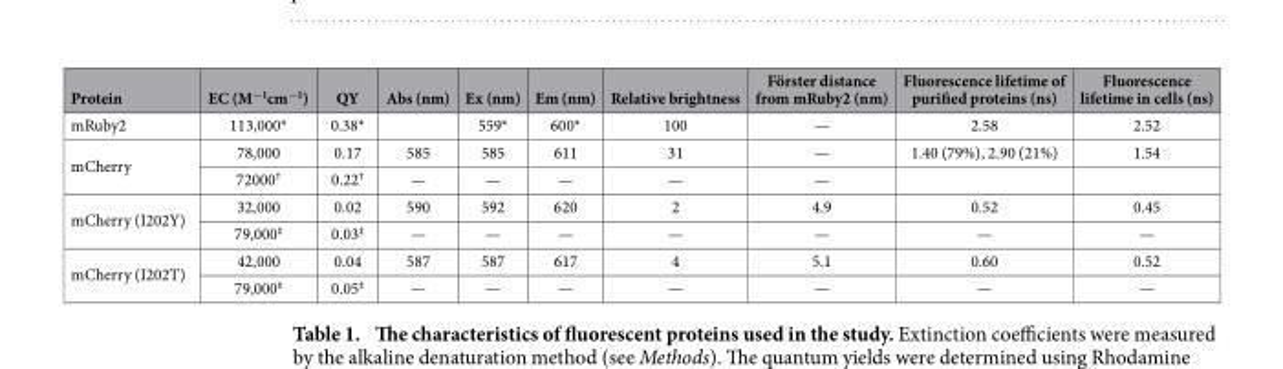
<table><thead><tr><td>Protein</td><td>EC (M<sup>−1</sup>cm<sup>−1</sup>)</td><td>QY</td><td>Abs (nm)</td><td>Ex (nm)</td><td>Em (nm)</td><td>Relative brightness</td><td>Förster distance from mRuby2 (nm)</td><td>Fluorescence lifetime of purified proteins (ns)</td><td>Fluorescence lifetime in cells (ns)</td></tr></thead><tbody><tr><td>mRuby2</td><td>113,000*</td><td>0.38*</td><td></td><td>559*</td><td>600*</td><td>100</td><td>—</td><td>2.58</td><td>2.52</td></tr><tr><td rowspan="2">mCherry</td><td>78,000</td><td>0.17</td><td>585</td><td>585</td><td>611</td><td>31</td><td>—</td><td>1.40 (79%), 2.90 (21%)</td><td>1.54</td></tr><tr><td>72000†</td><td>0.22†</td><td>—</td><td>—</td><td>—</td><td>—</td><td>—</td><td></td><td></td></tr><tr><td rowspan="2">mCherry (I202Y)</td><td>32,000</td><td>0.02</td><td>590</td><td>592</td><td>620</td><td>2</td><td>4.9</td><td>0.52</td><td>0.45</td></tr><tr><td>79,000‡</td><td>0.03‡</td><td>—</td><td>—</td><td>—</td><td>—</td><td>—</td><td>—</td><td>—</td></tr><tr><td rowspan="2">mCherry (I202T)</td><td>42,000</td><td>0.04</td><td>587</td><td>587</td><td>617</td><td>4</td><td>5.1</td><td>0.60</td><td>0.52</td></tr><tr><td>79,000‡</td><td>0.05‡</td><td>—</td><td>—</td><td>—</td><td>—</td><td>—</td><td>—</td><td>—</td></tr></tbody></table>